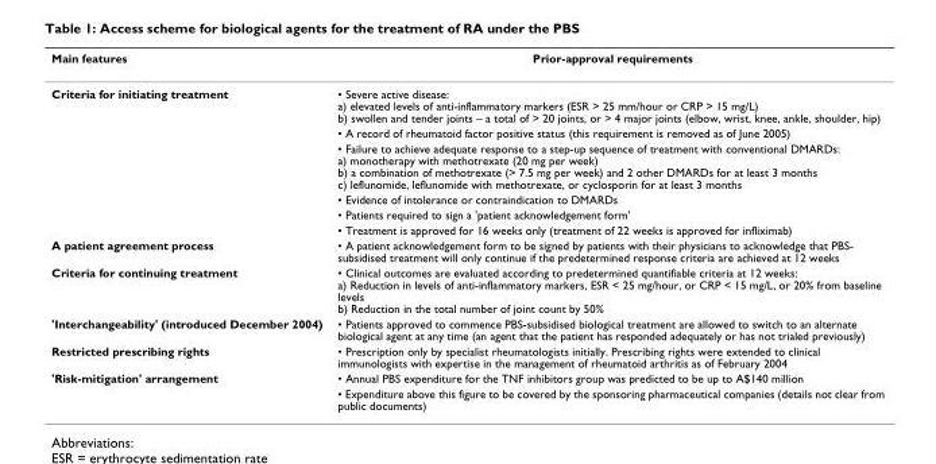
<table><thead><tr><td>Main features</td><td>Prior-approval requirements</td></tr></thead><tbody><tr><td rowspan="6">Criteria for initiating treatment</td><td>• Severe active disease: a) elevated levels of anti-inflammatory markers (ESR &gt; 25 mm/hour or CRP &gt; 15 mg/L) b) swollen and tender joints – a total of &gt; 20 joints, or &gt; 4 major joints (elbow, wrist, knee, ankle, shoulder, hip)</td></tr><tr><td>• A record of rheumatoid factor positive status (this requirement is removed as of June 2005)</td></tr><tr><td>• Failure to achieve adequate response to a step-up sequence of treatment with conventional DMARDs: a) monotherapy with methotrexate (20 mg per week) b) a combination of methotrexate (&gt; 7.5 mg per week) and 2 other DMARDs for at least 3 months c) leflunomide, leflunomide with methotrexate, or cyclosporin for at least 3 months</td></tr><tr><td>• Evidence of intolerance or contraindication to DMARDs</td></tr><tr><td>• Patients required to sign a &#x27;patient acknowledgement form&#x27;</td></tr><tr><td>• Treatment is approved for 16 weeks only (treatment of 22 weeks is approved for infliximab)</td></tr><tr><td>A patient agreement process</td><td>• A patient acknowledgement form to be signed by patients with their physicians to acknowledge that PBS- subsidised treatment will only continue if the predetermined response criteria are achieved at 12 weeks</td></tr><tr><td>Criteria for continuing treatment</td><td>• Clinical outcomes are evaluated according to predetermined quantifiable criteria at 12 weeks: a) Reduction in levels of anti-inflammatory markers, ESR &lt; 25 mg/hour, or CRP &lt; 15 mg/L, or 20% from baseline levels b) Reduction in the total number of joint count by 50%</td></tr><tr><td>&#x27;Interchangeability&#x27; (introduced December 2004)</td><td>• Patients approved to commence PBS-subsidised biological treatment are allowed to switch to an alternate biological agent at any time (an agent that the patient has responded adequately or has not trialed previously)</td></tr><tr><td>Restricted prescribing rights</td><td>• Prescription only by specialist rheumatologists initially. Prescribing rights were extended to clinical immunologists with expertise in the management of rheumatoid arthritis as of February 2004</td></tr><tr><td rowspan="2">&#x27;Risk-mitigation&#x27; arrangement</td><td>• Annual PBS expenditure for the TNF inhibitors group was predicted to be up to A$140 million</td></tr><tr><td>• Expenditure above this figure to be covered by the sponsoring pharmaceutical companies (details not clear from public documents)</td></tr></tbody></table>